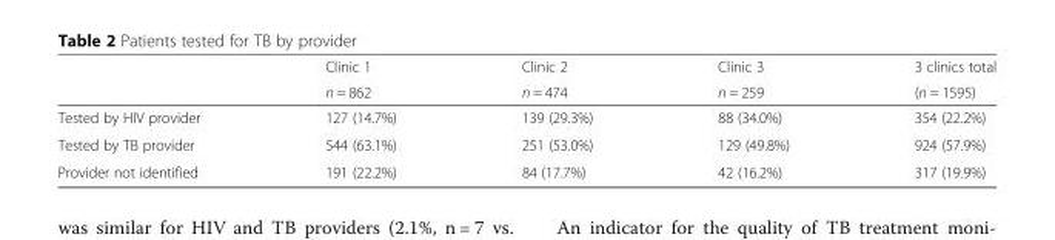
<table><thead><tr><td rowspan="2"></td><td rowspan="2">Clinic 1 n = 862</td><td rowspan="2">Clinic 2 n = 474</td><td rowspan="2">Clinic 3 n = 259</td><td rowspan="2">3 clinics total (n = 1595)</td></tr><tr></tr></thead><tbody><tr><td>Tested by HIV provider</td><td>127 (14.7%)</td><td>139 (29.3%)</td><td>88 (34.0%)</td><td>354 (22.2%)</td></tr><tr><td>Tested by TB provider</td><td>544 (63.1%)</td><td>251 (53.0%)</td><td>129 (49.8%)</td><td>924 (57.9%)</td></tr><tr><td>Provider not identified</td><td>191 (22.2%)</td><td>84 (17.7%)</td><td>42 (16.2%)</td><td>317 (19.9%)</td></tr></tbody></table>